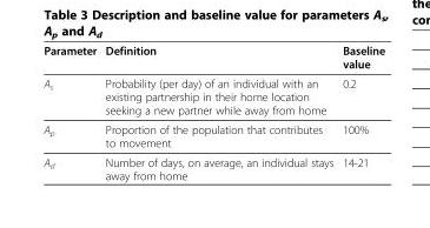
<table><thead><tr><td>Parameter</td><td>Definition</td><td>Baseline value</td></tr></thead><tbody><tr><td>A<sub>s</sub></td><td>Probability (per day) of an individual with an existing partnership in their home location seeking a new partner while away from home</td><td>0.2</td></tr><tr><td>A<sub>p</sub></td><td>Proportion of the population that contributes to movement</td><td>100%</td></tr><tr><td>A<sub>d</sub></td><td>Number of days, on average, an individual stays away from home</td><td>14-21</td></tr></tbody></table>